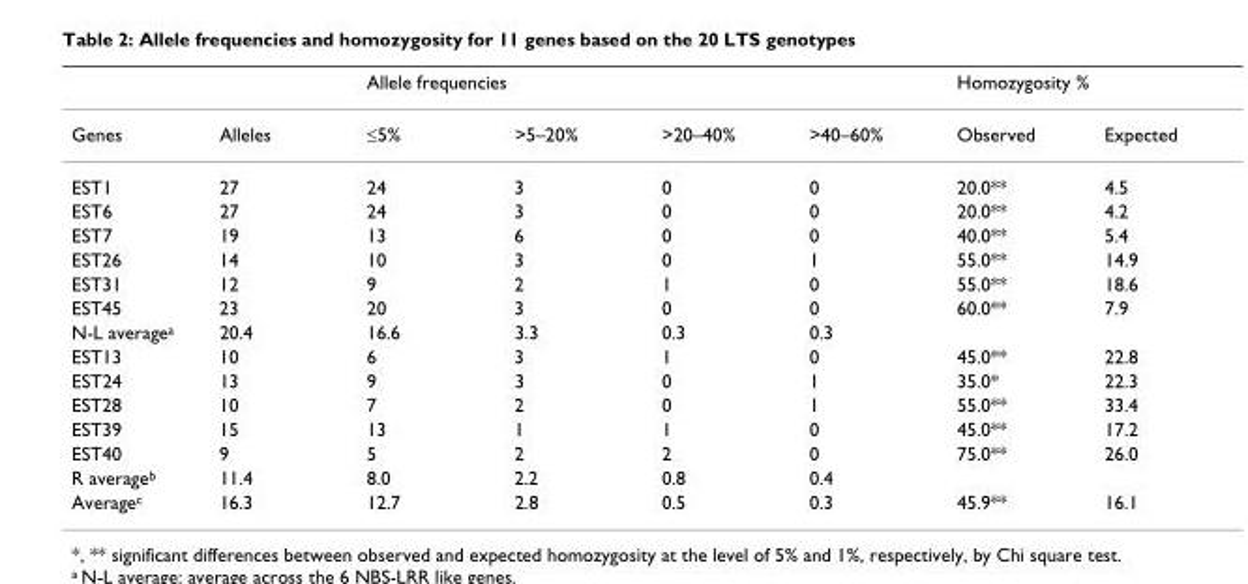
<table><thead><tr><td rowspan="2">Genes</td><td rowspan="2">Alleles</td><td colspan="4">Allele frequencies</td><td colspan="2">Homozygosity %</td></tr><tr><td>≤5%</td><td>&gt;5–20%</td><td>&gt;20–40%</td><td>&gt;40–60%</td><td>Observed</td><td>Expected</td></tr></thead><tbody><tr><td>EST1</td><td>27</td><td>24</td><td>3</td><td>0</td><td>0</td><td>20.0**</td><td>4.5</td></tr><tr><td>EST6</td><td>27</td><td>24</td><td>3</td><td>0</td><td>0</td><td>20.0**</td><td>4.2</td></tr><tr><td>EST7</td><td>19</td><td>13</td><td>6</td><td>0</td><td>0</td><td>40.0**</td><td>5.4</td></tr><tr><td>EST26</td><td>14</td><td>10</td><td>3</td><td>0</td><td>1</td><td>55.0**</td><td>14.9</td></tr><tr><td>EST31</td><td>12</td><td>9</td><td>2</td><td>1</td><td>0</td><td>55.0**</td><td>18.6</td></tr><tr><td>EST45</td><td>23</td><td>20</td><td>3</td><td>0</td><td>0</td><td>60.0**</td><td>7.9</td></tr><tr><td>N-L average<sup>a</sup></td><td>20.4</td><td>16.6</td><td>3.3</td><td>0.3</td><td>0.3</td><td></td><td></td></tr><tr><td>EST13</td><td>10</td><td>6</td><td>3</td><td>1</td><td>0</td><td>45.0**</td><td>22.8</td></tr><tr><td>EST24</td><td>13</td><td>9</td><td>3</td><td>0</td><td>1</td><td>35.0*</td><td>22.3</td></tr><tr><td>EST28</td><td>10</td><td>7</td><td>2</td><td>0</td><td>1</td><td>55.0**</td><td>33.4</td></tr><tr><td>EST39</td><td>15</td><td>13</td><td>1</td><td>1</td><td>0</td><td>45.0**</td><td>17.2</td></tr><tr><td>EST40</td><td>9</td><td>5</td><td>2</td><td>2</td><td>0</td><td>75.0**</td><td>26.0</td></tr><tr><td>R average<sup>b</sup></td><td>11.4</td><td>8.0</td><td>2.2</td><td>0.8</td><td>0.4</td><td></td><td></td></tr><tr><td>Average<sup>c</sup></td><td>16.3</td><td>12.7</td><td>2.8</td><td>0.5</td><td>0.3</td><td>45.9**</td><td>16.1</td></tr></tbody></table>